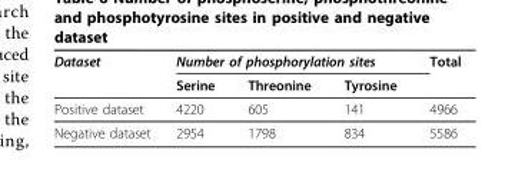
<table><thead><tr><td rowspan="2">Dataset</td><td colspan="3">Number of phosphorylation sites</td><td rowspan="2">Total</td></tr><tr><td>Serine</td><td>Threonine</td><td>Tyrosine</td></tr></thead><tbody><tr><td>Positive dataset</td><td>4220</td><td>605</td><td>141</td><td>4966</td></tr><tr><td>Negative dataset</td><td>2954</td><td>1798</td><td>834</td><td>5586</td></tr></tbody></table>